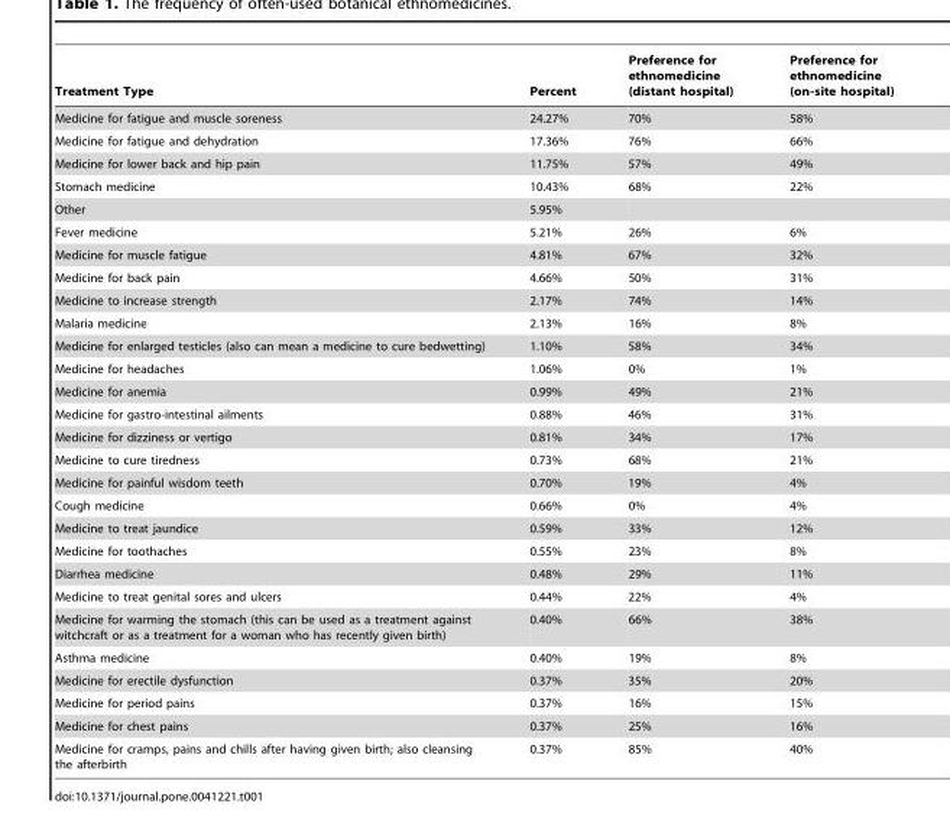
<table><thead><tr><td>Treatment Type</td><td>Percent</td><td>Preference for ethnomedicine (distant hospital)</td><td>Preference for ethnomedicine (on-site hospital)</td></tr></thead><tbody><tr><td>Medicine for fatigue and muscle soreness</td><td>24.27%</td><td>70%</td><td>58%</td></tr><tr><td>Medicine for fatigue and dehydration</td><td>17.36%</td><td>76%</td><td>66%</td></tr><tr><td>Medicine for lower back and hip pain</td><td>11.75%</td><td>57%</td><td>49%</td></tr><tr><td>Stomach medicine</td><td>10.43%</td><td>68%</td><td>22%</td></tr><tr><td>Other</td><td>5.95%</td><td></td><td></td></tr><tr><td>Fever medicine</td><td>5.21%</td><td>26%</td><td>6%</td></tr><tr><td>Medicine for muscle fatigue</td><td>4.81%</td><td>67%</td><td>32%</td></tr><tr><td>Medicine for back pain</td><td>4.66%</td><td>50%</td><td>31%</td></tr><tr><td>Medicine to increase strength</td><td>2.17%</td><td>74%</td><td>14%</td></tr><tr><td>Malaria medicine</td><td>2.13%</td><td>16%</td><td>8%</td></tr><tr><td>Medicine for enlarged testicles (also can mean a medicine to cure bedwetting)</td><td>1.10%</td><td>58%</td><td>34%</td></tr><tr><td>Medicine for headaches</td><td>1.06%</td><td>0%</td><td>1%</td></tr><tr><td>Medicine for anemia</td><td>0.99%</td><td>49%</td><td>21%</td></tr><tr><td>Medicine for gastro-intestinal ailments</td><td>0.88%</td><td>46%</td><td>31%</td></tr><tr><td>Medicine for dizziness or vertigo</td><td>0.81%</td><td>34%</td><td>17%</td></tr><tr><td>Medicine to cure tiredness</td><td>0.73%</td><td>68%</td><td>21%</td></tr><tr><td>Medicine for painful wisdom teeth</td><td>0.70%</td><td>19%</td><td>4%</td></tr><tr><td>Cough medicine</td><td>0.66%</td><td>0%</td><td>4%</td></tr><tr><td>Medicine to treat jaundice</td><td>0.59%</td><td>33%</td><td>12%</td></tr><tr><td>Medicine for toothaches</td><td>0.55%</td><td>23%</td><td>8%</td></tr><tr><td>Diarrhea medicine</td><td>0.48%</td><td>29%</td><td>11%</td></tr><tr><td>Medicine to treat genital sores and ulcers</td><td>0.44%</td><td>22%</td><td>4%</td></tr><tr><td>Medicine for warming the stomach (this can be used as a treatment against witchcraft or as a treatment for a woman who has recently given birth)</td><td>0.40%</td><td>66%</td><td>38%</td></tr><tr><td>Asthma medicine</td><td>0.40%</td><td>19%</td><td>8%</td></tr><tr><td>Medicine for erectile dysfunction</td><td>0.37%</td><td>35%</td><td>20%</td></tr><tr><td>Medicine for period pains</td><td>0.37%</td><td>16%</td><td>15%</td></tr><tr><td>Medicine for chest pains</td><td>0.37%</td><td>25%</td><td>16%</td></tr><tr><td>Medicine for cramps, pains and chills after having given birth; also cleansing the afterbirth</td><td>0.37%</td><td>85%</td><td>40%</td></tr></tbody></table>